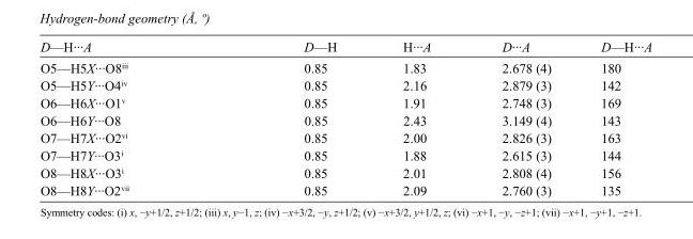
<table><tbody><tr><td>D—H···A</td><td>D—H</td><td>H···A</td><td>D···A</td><td>D—H···A</td></tr><tr><td>O5—H5X···O8<sup>iii</sup></td><td>0.85</td><td>1.83</td><td>2.678 (4)</td><td>180</td></tr><tr><td>O5—H5Y···O4<sup>iv</sup></td><td>0.85</td><td>2.16</td><td>2.879 (3)</td><td>142</td></tr><tr><td>O6—H6X···O1<sup>v</sup></td><td>0.85</td><td>1.91</td><td>2.748 (3)</td><td>169</td></tr><tr><td>O6—H6Y···O8</td><td>0.85</td><td>2.43</td><td>3.149 (4)</td><td>143</td></tr><tr><td>O7—H7X···O2<sup>vi</sup></td><td>0.85</td><td>2.00</td><td>2.826 (3)</td><td>163</td></tr><tr><td>O7—H7Y···O3<sup>i</sup></td><td>0.85</td><td>1.88</td><td>2.615 (3)</td><td>144</td></tr><tr><td>O8—H8X···O3<sup>i</sup></td><td>0.85</td><td>2.01</td><td>2.808 (4)</td><td>156</td></tr><tr><td>O8—H8Y···O2<sup>vii</sup></td><td>0.85</td><td>2.09</td><td>2.760 (3)</td><td>135</td></tr></tbody></table>